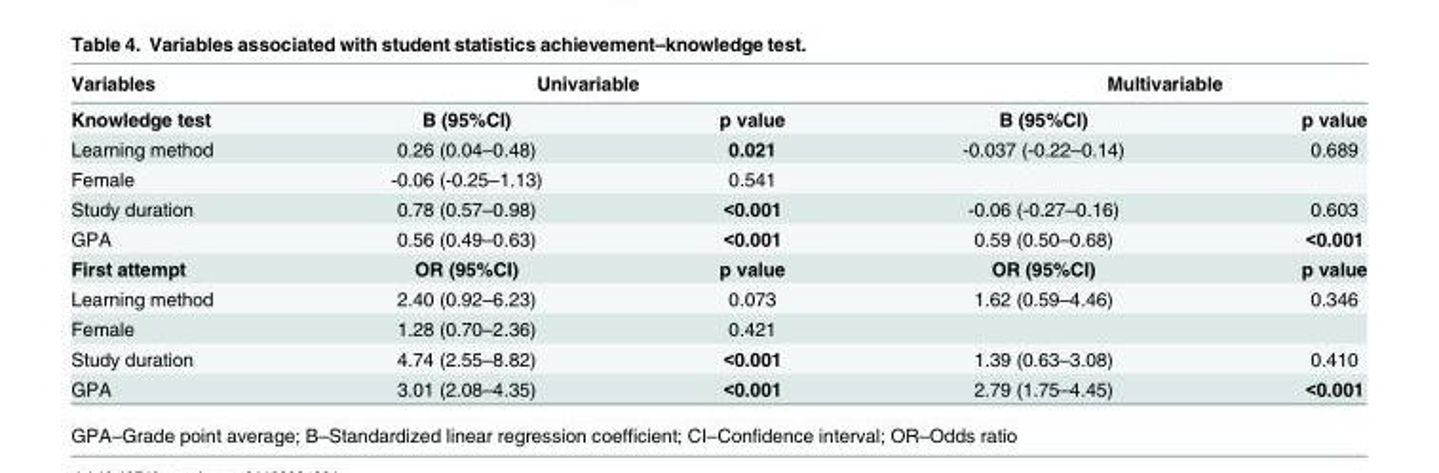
<table><thead><tr><td rowspan="2">Variables Knowledge test</td><td colspan="2">Univariable</td><td colspan="2">Multivariable</td></tr><tr><td>B (95%CI)</td><td>p value</td><td>B (95%CI)</td><td>p value</td></tr></thead><tbody><tr><td>Learning method</td><td>0.26 (0.04–0.48)</td><td>0.021</td><td>-0.037 (-0.22–0.14)</td><td>0.689</td></tr><tr><td>Female</td><td>-0.06 (-0.25–1.13)</td><td>0.541</td><td></td><td></td></tr><tr><td>Study duration</td><td>0.78 (0.57–0.98)</td><td>&lt;0.001</td><td>-0.06 (-0.27–0.16)</td><td>0.603</td></tr><tr><td>GPA</td><td>0.56 (0.49–0.63)</td><td>&lt;0.001</td><td>0.59 (0.50–0.68)</td><td>&lt;0.001</td></tr><tr><td>First attempt</td><td>OR (95%CI)</td><td>p value</td><td>OR (95%CI)</td><td>p value</td></tr><tr><td>Learning method</td><td>2.40 (0.92–6.23)</td><td>0.073</td><td>1.62 (0.59–4.46)</td><td>0.346</td></tr><tr><td>Female</td><td>1.28 (0.70–2.36)</td><td>0.421</td><td></td><td></td></tr><tr><td>Study duration</td><td>4.74 (2.55–8.82)</td><td>&lt;0.001</td><td>1.39 (0.63–3.08)</td><td>0.410</td></tr><tr><td>GPA</td><td>3.01 (2.08–4.35)</td><td>&lt;0.001</td><td>2.79 (1.75–4.45)</td><td>&lt;0.001</td></tr></tbody></table>